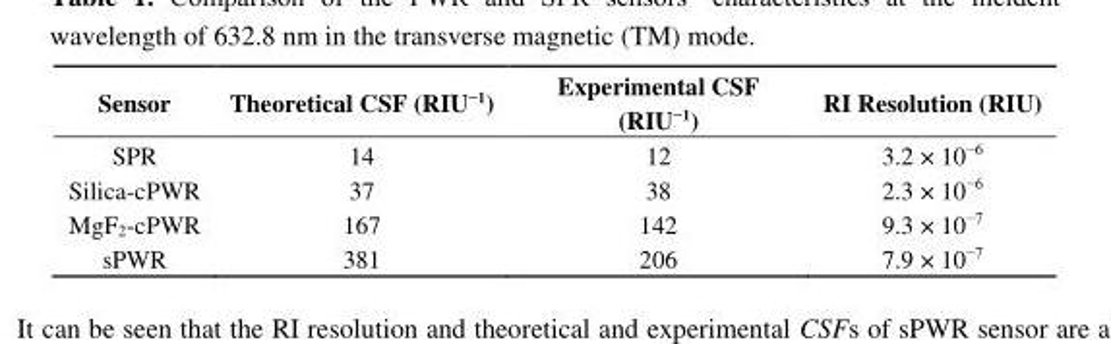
<table><thead><tr><td>Sensor</td><td>Theoretical CSF (RIU<sup>−1</sup>)</td><td>Experimental CSF (RIU<sup>−1</sup>)</td><td>RI Resolution (RIU)</td></tr></thead><tbody><tr><td>SPR</td><td>14</td><td>12</td><td>3.2 × 10<sup>−6</sup></td></tr><tr><td>Silica-cPWR</td><td>37</td><td>38</td><td>2.3 × 10<sup>−6</sup></td></tr><tr><td>MgF<sub>2</sub>-cPWR</td><td>167</td><td>142</td><td>9.3 × 10<sup>−7</sup></td></tr><tr><td>sPWR</td><td>381</td><td>206</td><td>7.9 × 10<sup>−7</sup></td></tr></tbody></table>